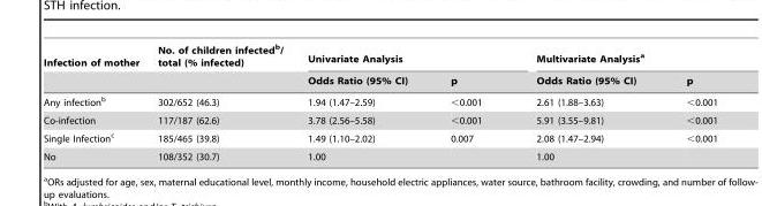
<table><thead><tr><td rowspan="2">Infection of mother</td><td rowspan="2">No. of children infected<sup>b</sup>/ total (% infected)</td><td colspan="2">Univariate Analysis</td><td colspan="2">Multivariate Analysis<sup>a</sup></td></tr><tr><td>Odds Ratio (95% CI)</td><td>p</td><td>Odds Ratio (95% CI)</td><td>p</td></tr></thead><tbody><tr><td>Any infection<sup>b</sup></td><td>302/652 (46.3)</td><td>1.94 (1.47–2.59)</td><td>&lt;0.001</td><td>2.61 (1.88–3.63)</td><td>&lt;0.001</td></tr><tr><td>Co-infection</td><td>117/187 (62.6)</td><td>3.78 (2.56–5.58)</td><td>&lt;0.001</td><td>5.91 (3.55–9.81)</td><td>&lt;0.001</td></tr><tr><td>Single Infection<sup>c</sup></td><td>185/465 (39.8)</td><td>1.49 (1.10–2.02)</td><td>0.007</td><td>2.08 (1.47–2.94)</td><td>&lt;0.001</td></tr><tr><td>No</td><td>108/352 (30.7)</td><td>1.00</td><td></td><td>1.00</td><td></td></tr></tbody></table>